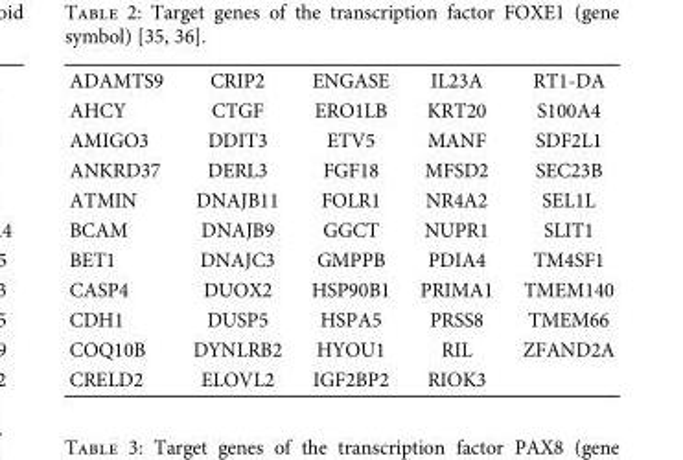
<table><tbody><tr><td>ADAMTS9</td><td>CRIP2</td><td>ENGASE</td><td>IL23A</td><td>RT1-DA</td></tr><tr><td>AHCY</td><td>CTGF</td><td>ERO1LB</td><td>KRT20</td><td>S100A4</td></tr><tr><td>AMIGO3</td><td>DDIT3</td><td>ETV5</td><td>MANF</td><td>SDF2L1</td></tr><tr><td>ANKRD37</td><td>DERL3</td><td>FGF18</td><td>MFSD2</td><td>SEC23B</td></tr><tr><td>ATMIN</td><td>DNAJB11</td><td>FOLR1</td><td>NR4A2</td><td>SEL1L</td></tr><tr><td>BCAM</td><td>DNAJB9</td><td>GGCT</td><td>NUPR1</td><td>SLIT1</td></tr><tr><td>BET1</td><td>DNAJC3</td><td>GMPPB</td><td>PDIA4</td><td>TM4SF1</td></tr><tr><td>CASP4</td><td>DUOX2</td><td>HSP90B1</td><td>PRIMA1</td><td>TMEM140</td></tr><tr><td>CDH1</td><td>DUSP5</td><td>HSPA5</td><td>PRSS8</td><td>TMEM66</td></tr><tr><td>COQ10B</td><td>DYNLRB2</td><td>HYOU1</td><td>RIL</td><td>ZFAND2A</td></tr><tr><td>CRELD2</td><td>ELOVL2</td><td>IGF2BP2</td><td>RIOK3</td><td></td></tr></tbody></table>